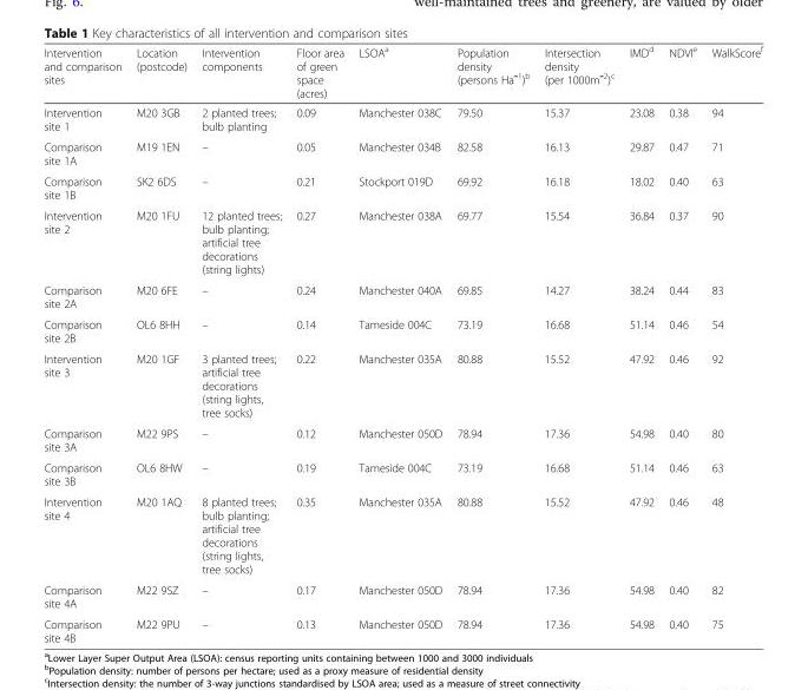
<table><thead><tr><td>Intervention and comparison sites</td><td>Location (postcode)</td><td>Intervention components</td><td>Floor area of green space (acres)</td><td>LSOA<sup>a</sup></td><td>Population density (persons Haˉ<sup>1</sup>)<sup>b</sup></td><td>Intersection density (per 1000mˉ<sup>2</sup>)<sup>c</sup></td><td>IMD<sup>d</sup></td><td>NDVI<sup>e</sup></td><td>WalkScore<sup>f</sup></td></tr></thead><tbody><tr><td>Intervention site 1</td><td>M20 3GB</td><td>2 planted trees; bulb planting</td><td>0.09</td><td>Manchester 038C</td><td>79.50</td><td>15.37</td><td>23.08</td><td>0.38</td><td>94</td></tr><tr><td>Comparison site 1A</td><td>M19 1EN</td><td>–</td><td>0.05</td><td>Manchester 034B</td><td>82.58</td><td>16.13</td><td>29.87</td><td>0.47</td><td>71</td></tr><tr><td>Comparison site 1B</td><td>SK2 6DS</td><td>–</td><td>0.21</td><td>Stockport 019D</td><td>69.92</td><td>16.18</td><td>18.02</td><td>0.40</td><td>63</td></tr><tr><td>Intervention site 2</td><td>M20 1FU</td><td>12 planted trees; bulb planting; artificial tree decorations (string lights)</td><td>0.27</td><td>Manchester 038A</td><td>69.77</td><td>15.54</td><td>36.84</td><td>0.37</td><td>90</td></tr><tr><td>Comparison site 2A</td><td>M20 6FE</td><td>–</td><td>0.24</td><td>Manchester 040A</td><td>69.85</td><td>14.27</td><td>38.24</td><td>0.44</td><td>83</td></tr><tr><td>Comparison site 2B</td><td>OL6 8HH</td><td>–</td><td>0.14</td><td>Tameside 004C</td><td>73.19</td><td>16.68</td><td>51.14</td><td>0.46</td><td>54</td></tr><tr><td>Intervention site 3</td><td>M20 1GF</td><td>3 planted trees; artificial tree decorations (string lights, tree socks)</td><td>0.22</td><td>Manchester 035A</td><td>80.88</td><td>15.52</td><td>47.92</td><td>0.46</td><td>92</td></tr><tr><td>Comparison site 3A</td><td>M22 9PS</td><td>–</td><td>0.12</td><td>Manchester 050D</td><td>78.94</td><td>17.36</td><td>54.98</td><td>0.40</td><td>80</td></tr><tr><td>Comparison site 3B</td><td>OL6 8HW</td><td>–</td><td>0.19</td><td>Tameside 004C</td><td>73.19</td><td>16.68</td><td>51.14</td><td>0.46</td><td>63</td></tr><tr><td>Intervention site 4</td><td>M20 1AQ</td><td>8 planted trees; bulb planting; artificial tree decorations (string lights, tree socks)</td><td>0.35</td><td>Manchester 035A</td><td>80.88</td><td>15.52</td><td>47.92</td><td>0.46</td><td>48</td></tr><tr><td>Comparison site 4A</td><td>M22 9SZ</td><td>–</td><td>0.17</td><td>Manchester 050D</td><td>78.94</td><td>17.36</td><td>54.98</td><td>0.40</td><td>82</td></tr><tr><td>Comparison site 4B</td><td>M22 9PU</td><td>–</td><td>0.13</td><td>Manchester 050D</td><td>78.94</td><td>17.36</td><td>54.98</td><td>0.40</td><td>75</td></tr></tbody></table>